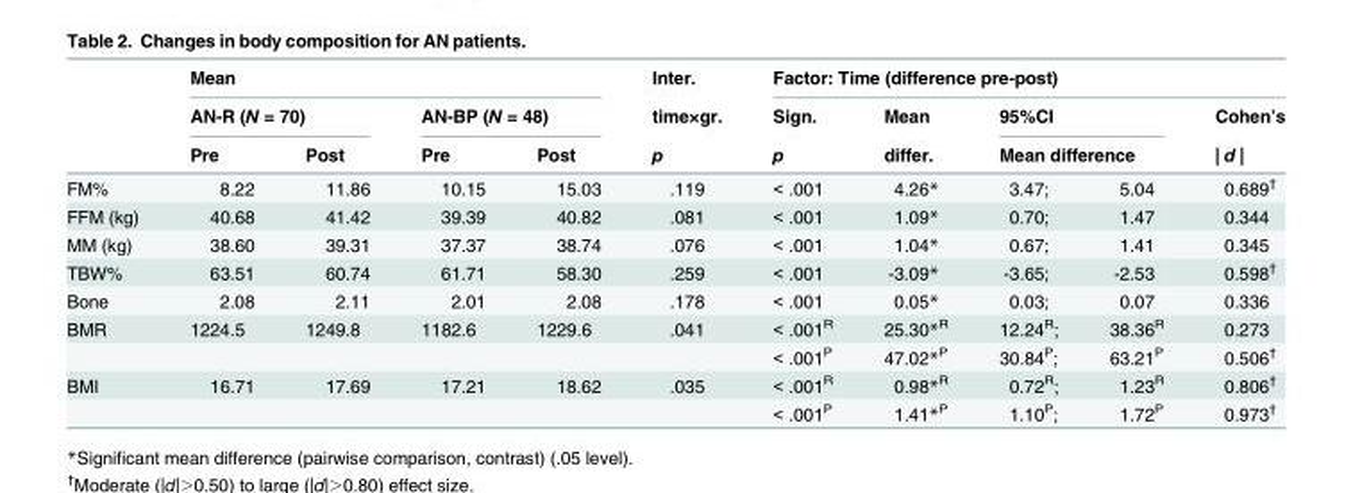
<table><thead><tr><td rowspan="4">FM%</td><td colspan="4">Mean</td><td rowspan="4">Inter. time×gr. p .119</td><td colspan="5">Factor: Time (difference pre-post)</td></tr><tr><td colspan="2">AN-R (N = 70)</td><td colspan="2">AN-BP (N = 48)</td><td rowspan="3">Sign. p &lt; .001</td><td rowspan="3">Mean differ. 4.26*</td><td rowspan="2" colspan="2">95%CI Mean difference</td><td rowspan="3">Cohen’s | d | 0.689<sup>†</sup></td></tr><tr><td rowspan="2">Pre 8.22</td><td rowspan="2">Post 11.86</td><td rowspan="2">Pre 10.15</td><td rowspan="2">Post 15.03</td></tr><tr><td>3.47;</td><td>5.04</td></tr></thead><tbody><tr><td>FFM (kg)</td><td>40.68</td><td>41.42</td><td>39.39</td><td>40.82</td><td>.081</td><td>&lt; .001</td><td>1.09*</td><td>0.70;</td><td>1.47</td><td>0.344</td></tr><tr><td>MM (kg)</td><td>38.60</td><td>39.31</td><td>37.37</td><td>38.74</td><td>.076</td><td>&lt; .001</td><td>1.04*</td><td>0.67;</td><td>1.41</td><td>0.345</td></tr><tr><td>TBW%</td><td>63.51</td><td>60.74</td><td>61.71</td><td>58.30</td><td>.259</td><td>&lt; .001</td><td>-3.09*</td><td>-3.65;</td><td>-2.53</td><td>0.598<sup>†</sup></td></tr><tr><td>Bone</td><td>2.08</td><td>2.11</td><td>2.01</td><td>2.08</td><td>.178</td><td>&lt; .001</td><td>0.05*</td><td>0.03;</td><td>0.07</td><td>0.336</td></tr><tr><td rowspan="2">BMR</td><td>1224.5</td><td>1249.8</td><td>1182.6</td><td>1229.6</td><td>.041</td><td>&lt; .001<sup>R</sup></td><td>25.30*<sup>R</sup></td><td>12.24<sup>R</sup>;</td><td>38.36<sup>R</sup></td><td>0.273</td></tr><tr><td></td><td></td><td></td><td></td><td></td><td>&lt; .001<sup>P</sup></td><td>47.02*<sup>P</sup></td><td>30.84<sup>P</sup>;</td><td>63.21<sup>P</sup></td><td>0.506<sup>†</sup></td></tr><tr><td rowspan="2">BMI</td><td>16.71</td><td>17.69</td><td>17.21</td><td>18.62</td><td>.035</td><td>&lt; .001<sup>R</sup></td><td>0.98*<sup>R</sup></td><td>0.72<sup>R</sup>;</td><td>1.23<sup>R</sup></td><td>0.806<sup>†</sup></td></tr><tr><td></td><td></td><td></td><td></td><td></td><td>&lt; .001<sup>P</sup></td><td>1.41*<sup>P</sup></td><td>1.10<sup>P</sup>;</td><td>1.72<sup>P</sup></td><td>0.973<sup>†</sup></td></tr></tbody></table>